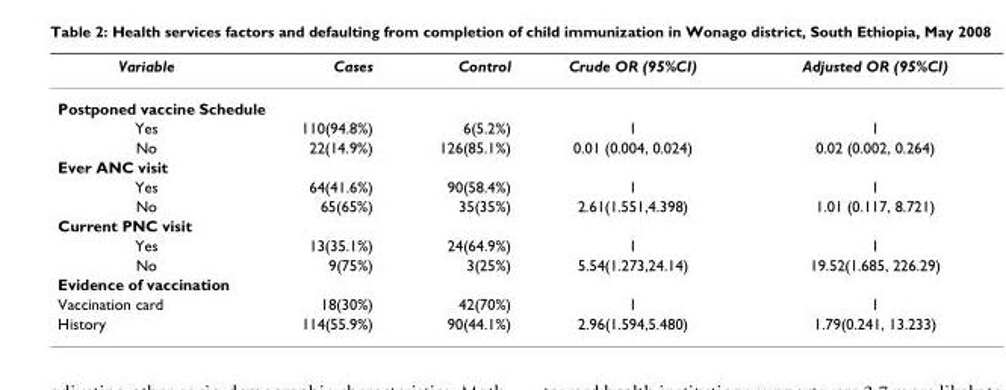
<table><thead><tr><td>Variable</td><td>Cases</td><td>Control</td><td>Crude OR (95%CI)</td><td>Adjusted OR (95%CI)</td></tr></thead><tbody><tr><td colspan="5">Postponed vaccine Schedule</td></tr><tr><td>Yes</td><td>110(94.8%)</td><td>6(5.2%)</td><td>1</td><td>1</td></tr><tr><td>No</td><td>22(14.9%)</td><td>126(85.1%)</td><td>0.01 (0.004, 0.024)</td><td>0.02 (0.002, 0.264)</td></tr><tr><td colspan="5">Ever ANC visit</td></tr><tr><td>Yes</td><td>64(41.6%)</td><td>90(58.4%)</td><td>1</td><td>1</td></tr><tr><td>No</td><td>65(65%)</td><td>35(35%)</td><td>2.61(1.551,4.398)</td><td>1.01 (0.117, 8.721)</td></tr><tr><td colspan="5">Current PNC visit</td></tr><tr><td>Yes</td><td>13(35.1%)</td><td>24(64.9%)</td><td>1</td><td>1</td></tr><tr><td>No</td><td>9(75%)</td><td>3(25%)</td><td>5.54(1.273,24.14)</td><td>19.52(1.685, 226.29)</td></tr><tr><td colspan="5">Evidence of vaccination</td></tr><tr><td>Vaccination card</td><td>18(30%)</td><td>42(70%)</td><td>1</td><td>1</td></tr><tr><td>History</td><td>114(55.9%)</td><td>90(44.1%)</td><td>2.96(1.594,5.480)</td><td>1.79(0.241, 13.233)</td></tr></tbody></table>